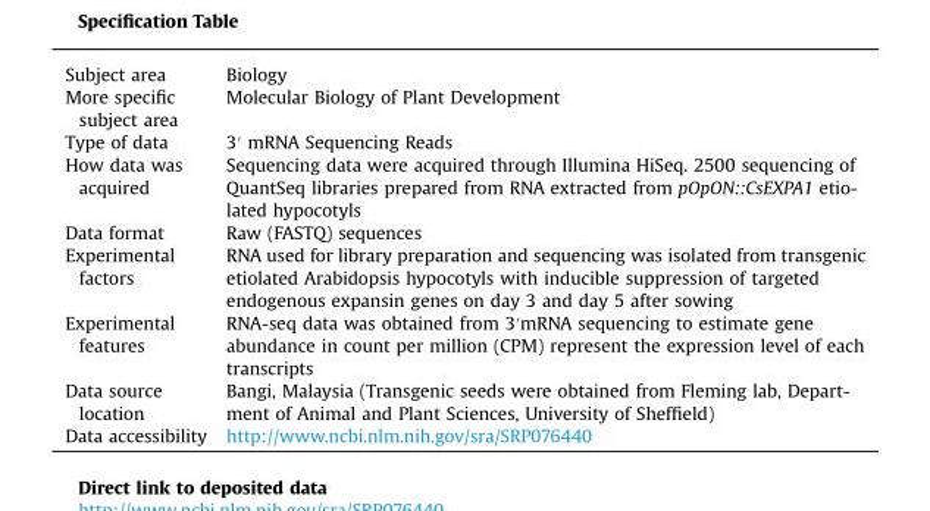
<table><tbody><tr><td>Subject area</td><td>Biology</td></tr><tr><td>More specific subject area</td><td>Molecular Biology of Plant Development</td></tr><tr><td>Type of data</td><td>3′ mRNA Sequencing Reads</td></tr><tr><td>How data was acquired</td><td>Sequencing data were acquired through Illumina HiSeq. 2500 sequencing of QuantSeq libraries prepared from RNA extracted from pOpON::CsEXPA1 etio- lated hypocotyls</td></tr><tr><td>Data format</td><td>Raw (FASTQ) sequences</td></tr><tr><td>Experimental factors</td><td>RNA used for library preparation and sequencing was isolated from transgenic etiolated Arabidopsis hypocotyls with inducible suppression of targeted endogenous expansin genes on day 3 and day 5 after sowing</td></tr><tr><td>Experimental features</td><td>RNA-seq data was obtained from 3′mRNA sequencing to estimate gene abundance in count per million (CPM) represent the expression level of each transcripts</td></tr><tr><td>Data source location</td><td>Bangi, Malaysia (Transgenic seeds were obtained from Fleming lab, Depart- ment of Animal and Plant Sciences, University of Sheffield)</td></tr><tr><td>Data accessibility</td><td>http://www.ncbi.nlm.nih.gov/sra/SRP076440</td></tr></tbody></table>